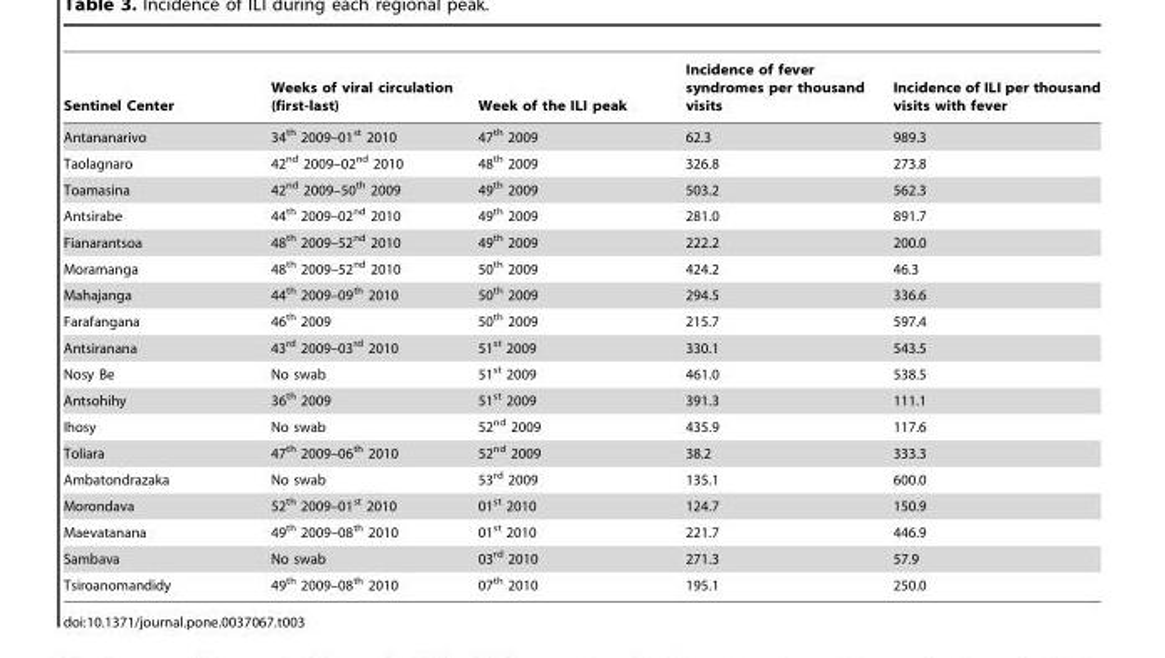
<table><thead><tr><td>Sentinel Center</td><td>Weeks of viral circulation (first-last)</td><td>Week of the ILI peak</td><td>Incidence of fever syndromes per thousand visits</td><td>Incidence of ILI per thousand visits with fever</td></tr></thead><tbody><tr><td>Antananarivo</td><td>34<sup>th</sup> 2009–01<sup>st</sup> 2010</td><td>47<sup>th</sup> 2009</td><td>62.3</td><td>989.3</td></tr><tr><td>Taolagnaro</td><td>42<sup>nd</sup> 2009–02<sup>nd</sup> 2010</td><td>48<sup>th</sup> 2009</td><td>326.8</td><td>273.8</td></tr><tr><td>Toamasina</td><td>42<sup>nd</sup> 2009–50<sup>th</sup> 2009</td><td>49<sup>th</sup> 2009</td><td>503.2</td><td>562.3</td></tr><tr><td>Antsirabe</td><td>44<sup>th</sup> 2009–02<sup>nd</sup> 2010</td><td>49<sup>th</sup> 2009</td><td>281.0</td><td>891.7</td></tr><tr><td>Fianarantsoa</td><td>48<sup>th</sup> 2009–52<sup>nd</sup> 2010</td><td>49<sup>th</sup> 2009</td><td>222.2</td><td>200.0</td></tr><tr><td>Moramanga</td><td>48<sup>th</sup> 2009–52<sup>nd</sup> 2010</td><td>50<sup>th</sup> 2009</td><td>424.2</td><td>46.3</td></tr><tr><td>Mahajanga</td><td>44<sup>th</sup> 2009–09<sup>th</sup> 2010</td><td>50<sup>th</sup> 2009</td><td>294.5</td><td>336.6</td></tr><tr><td>Farafangana</td><td>46<sup>th</sup> 2009</td><td>50<sup>th</sup> 2009</td><td>215.7</td><td>597.4</td></tr><tr><td>Antsiranana</td><td>43<sup>rd</sup> 2009–03<sup>rd</sup> 2010</td><td>51<sup>st</sup> 2009</td><td>330.1</td><td>543.5</td></tr><tr><td>Nosy Be</td><td>No swab</td><td>51<sup>st</sup> 2009</td><td>461.0</td><td>538.5</td></tr><tr><td>Antsohihy</td><td>36<sup>th</sup> 2009</td><td>51<sup>st</sup> 2009</td><td>391.3</td><td>111.1</td></tr><tr><td>Ihosy</td><td>No swab</td><td>52<sup>nd</sup> 2009</td><td>435.9</td><td>117.6</td></tr><tr><td>Toliara</td><td>47<sup>th</sup> 2009–06<sup>th</sup> 2010</td><td>52<sup>nd</sup> 2009</td><td>38.2</td><td>333.3</td></tr><tr><td>Ambatondrazaka</td><td>No swab</td><td>53<sup>rd</sup> 2009</td><td>135.1</td><td>600.0</td></tr><tr><td>Morondava</td><td>52<sup>th</sup> 2009–01<sup>st</sup> 2010</td><td>01<sup>st</sup> 2010</td><td>124.7</td><td>150.9</td></tr><tr><td>Maevatanana</td><td>49<sup>th</sup> 2009–08<sup>th</sup> 2010</td><td>01<sup>st</sup> 2010</td><td>221.7</td><td>446.9</td></tr><tr><td>Sambava</td><td>No swab</td><td>03<sup>rd</sup> 2010</td><td>271.3</td><td>57.9</td></tr><tr><td>Tsiroanomandidy</td><td>49<sup>th</sup> 2009–08<sup>th</sup> 2010</td><td>07<sup>th</sup> 2010</td><td>195.1</td><td>250.0</td></tr></tbody></table>